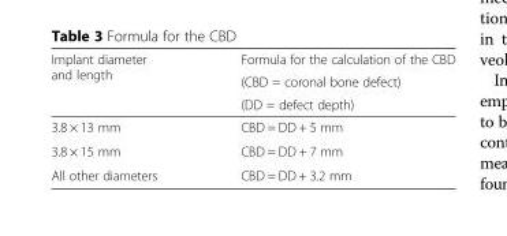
<table><thead><tr><td rowspan="3">Implant diameter and length</td><td rowspan="3">Formula for the calculation of the CBD (CBD = coronal bone defect) (DD = defect depth)</td></tr><tr></tr><tr></tr></thead><tbody><tr><td>3.8 × 13 mm</td><td>CBD = DD + 5 mm</td></tr><tr><td>3.8 × 15 mm</td><td>CBD = DD + 7 mm</td></tr><tr><td>All other diameters</td><td>CBD = DD + 3.2 mm</td></tr></tbody></table>